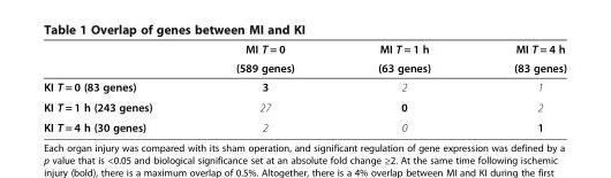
<table><thead><tr><td rowspan="2"></td><td rowspan="2">MI T = 0 (589 genes)</td><td rowspan="2">MI T = 1 h (63 genes)</td><td rowspan="2">MI T = 4 h (83 genes)</td></tr><tr></tr></thead><tbody><tr><td>KI T = 0 (83 genes)</td><td>3</td><td>2</td><td>1</td></tr><tr><td>KI T = 1 h (243 genes)</td><td>27</td><td>0</td><td>2</td></tr><tr><td>KI T = 4 h (30 genes)</td><td>2</td><td>0</td><td>1</td></tr></tbody></table>